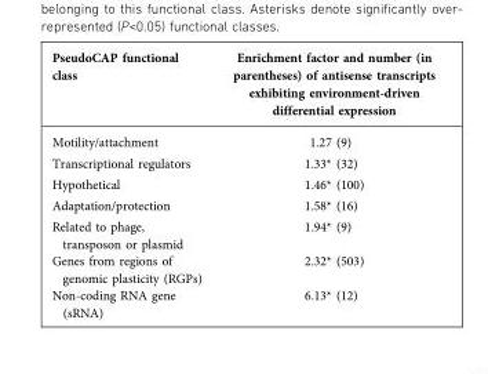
<table><thead><tr><td>PseudoCAP functional class</td><td>Enrichment factor and number (in parentheses) of antisense transcripts exhibiting environment-driven differential expression</td></tr></thead><tbody><tr><td>Motility/attachment</td><td>1.27 (9)</td></tr><tr><td>Transcriptional regulators</td><td>1.33* (32)</td></tr><tr><td>Hypothetical</td><td>1.46* (100)</td></tr><tr><td>Adaptation/protection</td><td>1.58* (16)</td></tr><tr><td>Related to phage, transposon or plasmid</td><td>1.94* (9)</td></tr><tr><td>Genes from regions of genomic plasticity (RGPs)</td><td>2.32* (503)</td></tr><tr><td>Non-coding RNA gene (sRNA)</td><td>6.13* (12)</td></tr></tbody></table>